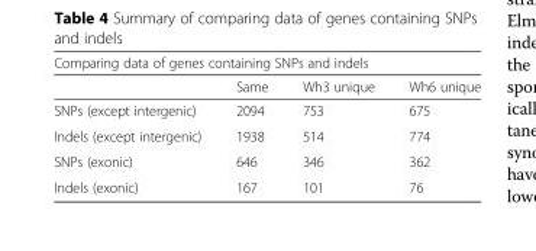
<table><thead><tr><td colspan="4">Comparing data of genes containing SNPs and indels</td></tr><tr><td></td><td>Same</td><td>Wh3 unique</td><td>Wh6 unique</td></tr></thead><tbody><tr><td>SNPs (except intergenic)</td><td>2094</td><td>753</td><td>675</td></tr><tr><td>Indels (except intergenic)</td><td>1938</td><td>514</td><td>774</td></tr><tr><td>SNPs (exonic)</td><td>646</td><td>346</td><td>362</td></tr><tr><td>Indels (exonic)</td><td>167</td><td>101</td><td>76</td></tr></tbody></table>